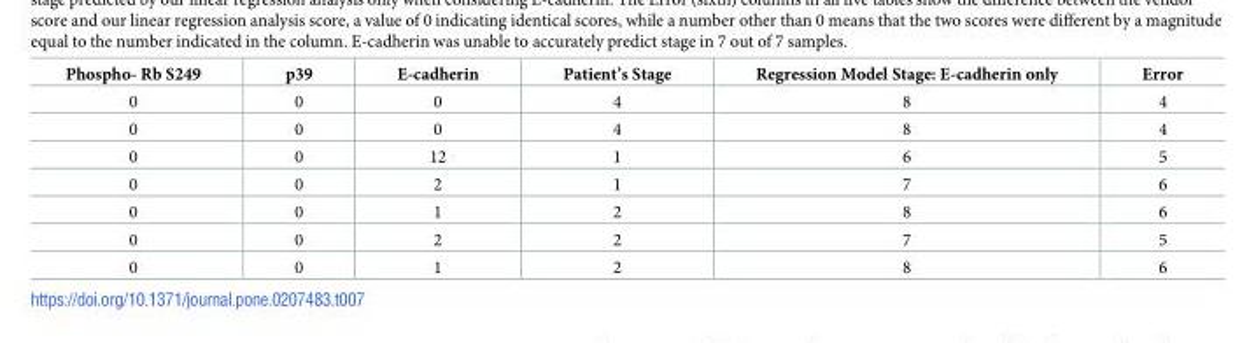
<table><thead><tr><td>Phospho- Rb S249</td><td>p39</td><td>E-cadherin</td><td>Patient’s Stage</td><td>Regression Model Stage: E-cadherin only</td><td>Error</td></tr></thead><tbody><tr><td>0</td><td>0</td><td>0</td><td>4</td><td>8</td><td>4</td></tr><tr><td>0</td><td>0</td><td>0</td><td>4</td><td>8</td><td>4</td></tr><tr><td>0</td><td>0</td><td>12</td><td>1</td><td>6</td><td>5</td></tr><tr><td>0</td><td>0</td><td>2</td><td>1</td><td>7</td><td>6</td></tr><tr><td>0</td><td>0</td><td>1</td><td>2</td><td>8</td><td>6</td></tr><tr><td>0</td><td>0</td><td>2</td><td>2</td><td>7</td><td>5</td></tr><tr><td>0</td><td>0</td><td>1</td><td>2</td><td>8</td><td>6</td></tr></tbody></table>